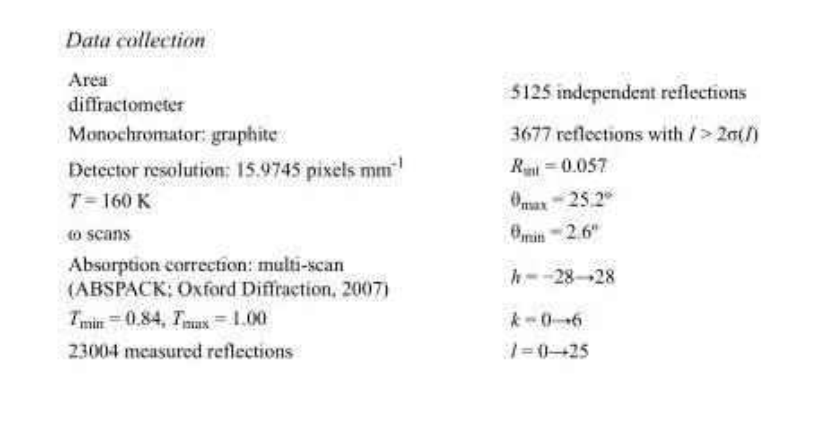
<table><tbody><tr><td>Area diffractometer</td><td>5125 independent reflections</td></tr><tr><td>Monochromator: graphite</td><td>3677 reflections with I &gt; 2σ(I)</td></tr><tr><td>Detector resolution: 15.9745 pixels mm<sup>-1</sup></td><td>R<sub>int</sub> = 0.057</td></tr><tr><td>T = 160 K</td><td>θ<sub>max</sub> = 25.2º</td></tr><tr><td>ω scans</td><td>θ<sub>min</sub> = 2.6º</td></tr><tr><td>Absorption correction: multi-scan (ABSPACK; Oxford Diffraction, 2007)</td><td>h = −28→28</td></tr><tr><td>T<sub>min</sub> = 0.84, T<sub>max</sub> = 1.00</td><td>k = 0→6</td></tr><tr><td>23004 measured reflections</td><td>l = 0→25</td></tr></tbody></table>